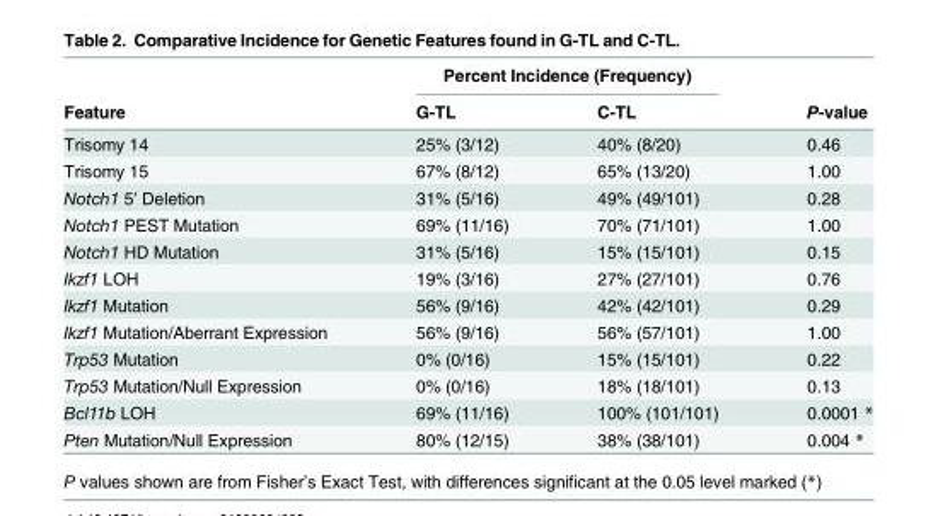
<table><thead><tr><td rowspan="2">Feature</td><td colspan="2">Percent Incidence (Frequency)</td><td rowspan="2">P-value</td></tr><tr><td>G-TL</td><td>C-TL</td></tr></thead><tbody><tr><td>Trisomy 14</td><td>25% (3/12)</td><td>40% (8/20)</td><td>0.46</td></tr><tr><td>Trisomy 15</td><td>67% (8/12)</td><td>65% (13/20)</td><td>1.00</td></tr><tr><td>Notch1 5ʹ Deletion</td><td>31% (5/16)</td><td>49% (49/101)</td><td>0.28</td></tr><tr><td>Notch1 PEST Mutation</td><td>69% (11/16)</td><td>70% (71/101)</td><td>1.00</td></tr><tr><td>Notch1 HD Mutation</td><td>31% (5/16)</td><td>15% (15/101)</td><td>0.15</td></tr><tr><td>Ikzf1 LOH</td><td>19% (3/16)</td><td>27% (27/101)</td><td>0.76</td></tr><tr><td>Ikzf1 Mutation</td><td>56% (9/16)</td><td>42% (42/101)</td><td>0.29</td></tr><tr><td>Ikzf1 Mutation/Aberrant Expression</td><td>56% (9/16)</td><td>56% (57/101)</td><td>1.00</td></tr><tr><td>Trp53 Mutation</td><td>0% (0/16)</td><td>15% (15/101)</td><td>0.22</td></tr><tr><td>Trp53 Mutation/Null Expression</td><td>0% (0/16)</td><td>18% (18/101)</td><td>0.13</td></tr><tr><td>Bcl11b LOH</td><td>69% (11/16)</td><td>100% (101/101)</td><td>0.0001 *</td></tr><tr><td>Pten Mutation/Null Expression</td><td>80% (12/15)</td><td>38% (38/101)</td><td>0.004 *</td></tr></tbody></table>